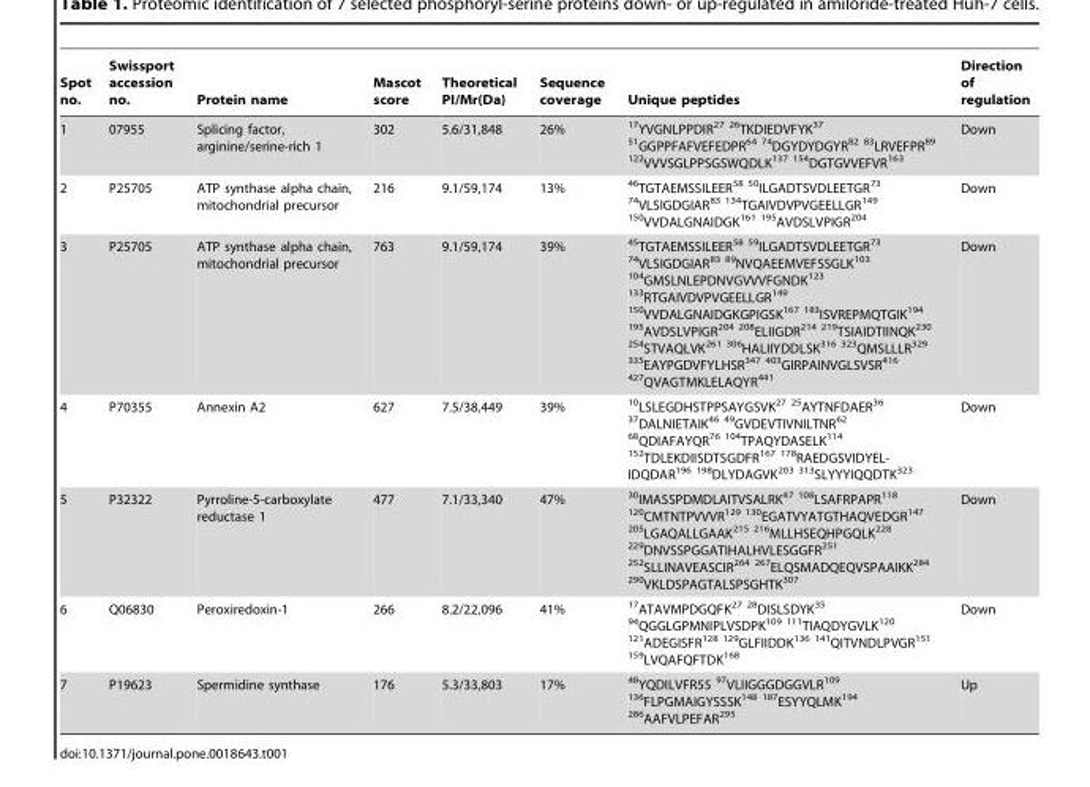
<table><thead><tr><td>Spot no.</td><td>Swissport accession no.</td><td>Protein name</td><td>Mascot score</td><td>Theoretical PI/Mr(Da)</td><td>Sequence coverage</td><td>Unique peptides</td><td>Direction of regulation</td></tr></thead><tbody><tr><td>1</td><td>07955</td><td>Splicing factor, arginine/serine-rich 1</td><td>302</td><td>5.6/31,848</td><td>26%</td><td><sup>17</sup>YVGNLPPDIR<sup>27 26</sup>TKDIEDVFYK<sup>37 51</sup>GGPPFAFVEFEDPR<sup>64 74</sup>DGYDYDGYR<sup>82 83</sup>LRVEFPR<sup>89 122</sup>VVVSGLPPSGSWQDLK<sup>137 154</sup>DGTGVVEFVR<sup>163</sup></td><td>Down</td></tr><tr><td>2</td><td>P25705</td><td>ATP synthase alpha chain, mitochondrial precursor</td><td>216</td><td>9.1/59,174</td><td>13%</td><td><sup>46</sup>TGTAEMSSILEER<sup>58 50</sup>ILGADTSVDLEETGR<sup>73 74</sup>VLSIGDGIAR<sup>83 134</sup>TGAIVDVPVGEELLGR<sup>149 150</sup>VVDALGNAIDGK<sup>161 195</sup>AVDSLVPIGR<sup>204</sup></td><td>Down</td></tr><tr><td>3</td><td>P25705</td><td>ATP synthase alpha chain, mitochondrial precursor</td><td>763</td><td>9.1/59,174</td><td>39%</td><td>45TGTAEMSSILEER58 59ILGADTSVDLEETGR73 74VLSIGDGIAR83 89NVQAEEMVEFSSGLK103 104GMSLNLEPDNVGVVVFGNDK123 133RTGAIVDVPVGEELLGR149 150VVDALGNAIDGKGPIGSK167 183ISVREPMQTGIK194 195AVDSLVPIGR204 208ELIIGDR214 219TSIAIDTIINQK230 254STVAQLVK261 306HALIIYDDLSK316 323QMSLLLR329 335EAYPGDVFYLHSR347 403GIRPAINVGLSVSR416 427QVAGTMKLELAQYR441</td><td>Down</td></tr><tr><td>4</td><td>P70355</td><td>Annexin A2</td><td>627</td><td>7.5/38,449</td><td>39%</td><td>10LSLEGDHSTPPSAYGSVK27 25AYTNFDAER36 37DALNIETAIK46 49GVDEVTIVNILTNR62 68QDIAFAYQR76 104TPAQYDASELK114 152TDLEKDIISDTSGDFR167 178RAEDGSVIDYEL- IDQDAR196 198DLYDAGVK203 313SLYYYIQQDTK323</td><td>Down</td></tr><tr><td>5</td><td>P32322</td><td>Pyrroline-5-carboxylate reductase 1</td><td>477</td><td>7.1/33,340</td><td>47%</td><td><sup>30</sup>IMASSPDMDLAITVSALRK<sup>47 108</sup>LSAFRPAPR<sup>118 120</sup>CMTNTPVVVR<sup>129 130</sup>EGATVYATGTHAQVEDGR<sup>147 205</sup>LGAQALLGAAK<sup>215 216</sup>MLLHSEQHPGQLK<sup>228 229</sup>DNVSSPGGATIHALHVLESGGFR<sup>251 252</sup>SLLINAVEASCIR<sup>264 267</sup>ELQSMADQEQVSPAAIKK<sup>284 290</sup>VKLDSPAGTALSPSGHTK<sup>307</sup></td><td>Down</td></tr><tr><td>6</td><td>Q06830</td><td>Peroxiredoxin-1</td><td>266</td><td>8.2/22,096</td><td>41%</td><td><sup>17</sup>ATAVMPDGQFK<sup>27 28</sup>DISLSDYK<sup>35 94</sup>QGGLGPMNIPLVSDPK<sup>109 111</sup>TIAQDYGVLK<sup>120 121</sup>ADEGISFR<sup>128 129</sup>GLFIIDDK<sup>136 141</sup>QITVNDLPVGR<sup>151 159</sup>LVQAFQFTDK<sup>168</sup></td><td>Down</td></tr><tr><td>7</td><td>P19623</td><td>Spermidine synthase</td><td>176</td><td>5.3/33,803</td><td>17%</td><td><sup>48</sup>YQDILVFR55 <sup>97</sup>VLIIGGGDGGVLR<sup>109 136</sup>FLPGMAIGYSSSK<sup>148 187</sup>ESYYQLMK<sup>194 286</sup>AAFVLPEFAR<sup>295</sup></td><td>Up</td></tr></tbody></table>